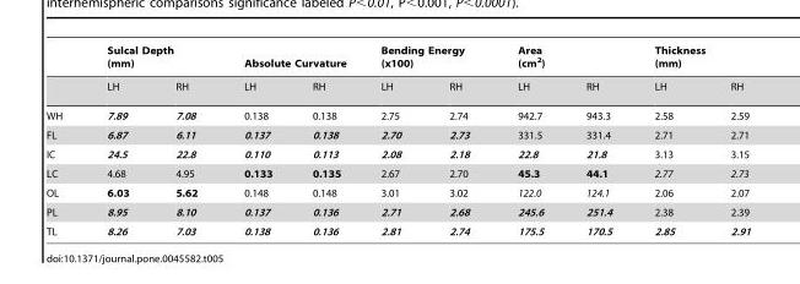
<table><thead><tr><td rowspan="2"></td><td colspan="2">Sulcal Depth (mm)</td><td colspan="2">Absolute Curvature</td><td colspan="2">Bending Energy (x100)</td><td colspan="2">Area (cm<sup>2</sup>)</td><td colspan="2">Thickness (mm)</td></tr><tr><td>LH</td><td>RH</td><td>LH</td><td>RH</td><td>LH</td><td>RH</td><td>LH</td><td>RH</td><td>LH</td><td>RH</td></tr></thead><tbody><tr><td>WH</td><td>7.89</td><td>7.08</td><td>0.138</td><td>0.138</td><td>2.75</td><td>2.74</td><td>942.7</td><td>943.3</td><td>2.58</td><td>2.59</td></tr><tr><td>FL</td><td>6.87</td><td>6.11</td><td>0.137</td><td>0.138</td><td>2.70</td><td>2.73</td><td>331.5</td><td>331.4</td><td>2.71</td><td>2.71</td></tr><tr><td>IC</td><td>24.5</td><td>22.8</td><td>0.110</td><td>0.113</td><td>2.08</td><td>2.18</td><td>22.8</td><td>21.8</td><td>3.13</td><td>3.15</td></tr><tr><td>LC</td><td>4.68</td><td>4.95</td><td>0.133</td><td>0.135</td><td>2.67</td><td>2.70</td><td>45.3</td><td>44.1</td><td>2.77</td><td>2.73</td></tr><tr><td>OL</td><td>6.03</td><td>5.62</td><td>0.148</td><td>0.148</td><td>3.01</td><td>3.02</td><td>122.0</td><td>124.1</td><td>2.06</td><td>2.07</td></tr><tr><td>PL</td><td>8.95</td><td>8.10</td><td>0.137</td><td>0.136</td><td>2.71</td><td>2.68</td><td>245.6</td><td>251.4</td><td>2.38</td><td>2.39</td></tr><tr><td>TL</td><td>8.26</td><td>7.03</td><td>0.138</td><td>0.136</td><td>2.81</td><td>2.74</td><td>175.5</td><td>170.5</td><td>2.85</td><td>2.91</td></tr></tbody></table>